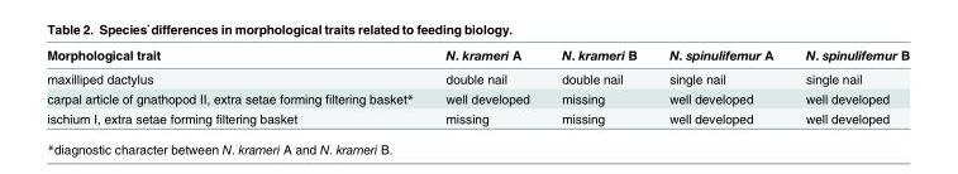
<table><thead><tr><td>Morphological trait</td><td>N. krameri A</td><td>N. krameri B</td><td>N. spinulifemur A</td><td>N. spinulifemur B</td></tr></thead><tbody><tr><td>maxilliped dactylus</td><td>double nail</td><td>double nail</td><td>single nail</td><td>single nail</td></tr><tr><td>carpal article of gnathopod II, extra setae forming filtering basket*</td><td>well developed</td><td>missing</td><td>well developed</td><td>well developed</td></tr><tr><td>ischium I, extra setae forming filtering basket</td><td>missing</td><td>missing</td><td>well developed</td><td>well developed</td></tr></tbody></table>